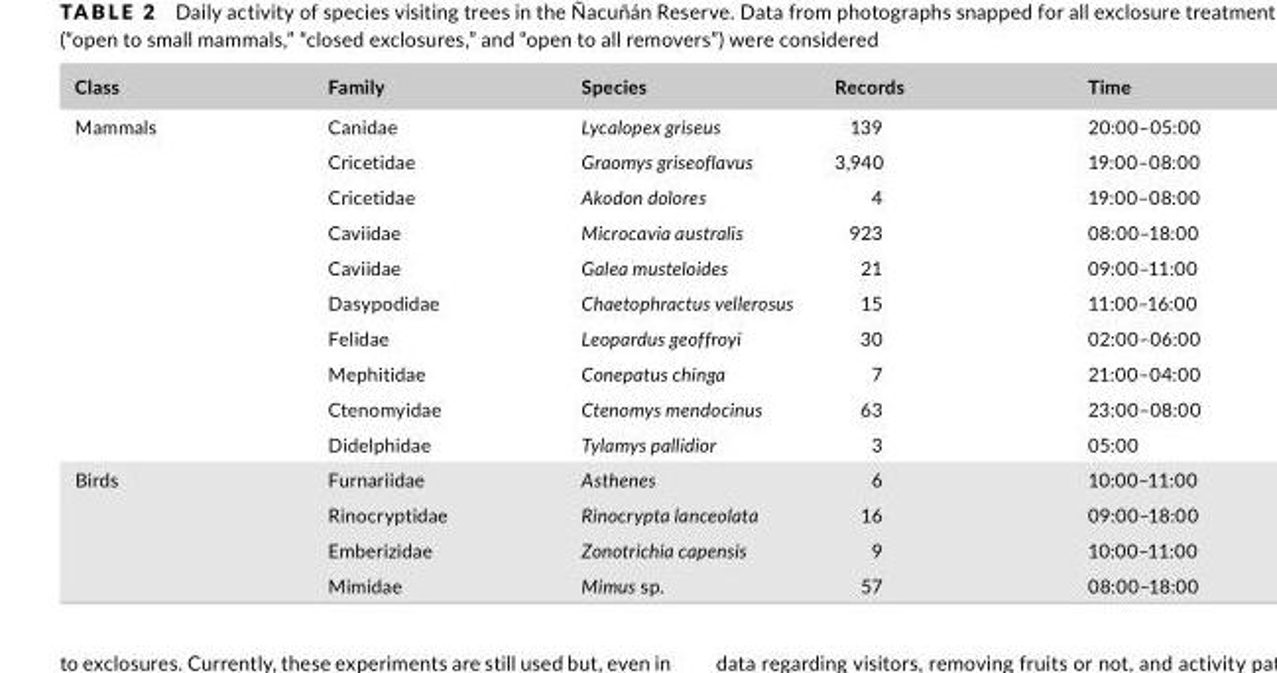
<table><thead><tr><td>Class</td><td>Family</td><td>Species</td><td>Records</td><td>Time</td></tr></thead><tbody><tr><td rowspan="10">Mammals</td><td>Canidae</td><td>Lycalopex griseus</td><td>139</td><td>20:00–05:00</td></tr><tr><td>Cricetidae</td><td>Graomys griseoflavus</td><td>3,940</td><td>19:00–08:00</td></tr><tr><td>Cricetidae</td><td>Akodon dolores</td><td>4</td><td>19:00–08:00</td></tr><tr><td>Caviidae</td><td>Microcavia australis</td><td>923</td><td>08:00–18:00</td></tr><tr><td>Caviidae</td><td>Galea musteloides</td><td>21</td><td>09:00–11:00</td></tr><tr><td>Dasypodidae</td><td>Chaetophractus vellerosus</td><td>15</td><td>11:00–16:00</td></tr><tr><td>Felidae</td><td>Leopardus geoffroyi</td><td>30</td><td>02:00–06:00</td></tr><tr><td>Mephitidae</td><td>Conepatus chinga</td><td>7</td><td>21:00–04:00</td></tr><tr><td>Ctenomyidae</td><td>Ctenomys mendocinus</td><td>63</td><td>23:00–08:00</td></tr><tr><td>Didelphidae</td><td>Tylamys pallidior</td><td>3</td><td>05:00</td></tr><tr><td rowspan="4">Birds</td><td>Furnariidae</td><td>Asthenes</td><td>6</td><td>10:00–11:00</td></tr><tr><td>Rinocryptidae</td><td>Rinocrypta lanceolata</td><td>16</td><td>09:00–18:00</td></tr><tr><td>Emberizidae</td><td>Zonotrichia capensis</td><td>9</td><td>10:00–11:00</td></tr><tr><td>Mimidae</td><td>Mimus sp.</td><td>57</td><td>08:00–18:00</td></tr></tbody></table>